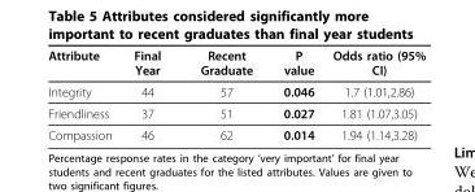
<table><thead><tr><td>Attribute</td><td>Final Year</td><td>Recent Graduate</td><td>P value</td><td>Odds ratio (95% CI)</td></tr></thead><tbody><tr><td>Integrity</td><td>44</td><td>57</td><td>0.046</td><td>1.7 (1.01,2.86)</td></tr><tr><td>Friendliness</td><td>37</td><td>51</td><td>0.027</td><td>1.81 (1.07,3.05)</td></tr><tr><td>Compassion</td><td>46</td><td>62</td><td>0.014</td><td>1.94 (1.14,3.28)</td></tr></tbody></table>